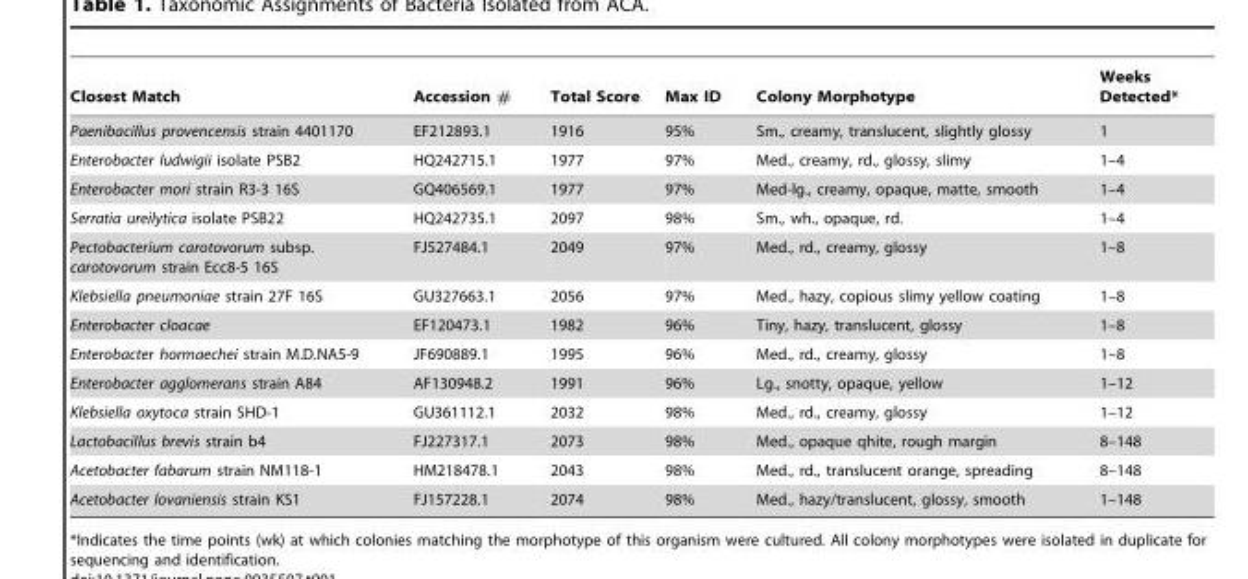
<table><thead><tr><td>Closest Match</td><td>Accession #</td><td>Total Score</td><td>Max ID</td><td>Colony Morphotype</td><td>Weeks Detected*</td></tr></thead><tbody><tr><td>Paenibacillus provencensis strain 4401170</td><td>EF212893.1</td><td>1916</td><td>95%</td><td>Sm., creamy, translucent, slightly glossy</td><td>1</td></tr><tr><td>Enterobacter ludwigii isolate PSB2</td><td>HQ242715.1</td><td>1977</td><td>97%</td><td>Med., creamy, rd., glossy, slimy</td><td>1–4</td></tr><tr><td>Enterobacter mori strain R3-3 16S</td><td>GQ406569.1</td><td>1977</td><td>97%</td><td>Med-lg., creamy, opaque, matte, smooth</td><td>1–4</td></tr><tr><td>Serratia ureilytica isolate PSB22</td><td>HQ242735.1</td><td>2097</td><td>98%</td><td>Sm., wh., opaque, rd.</td><td>1–4</td></tr><tr><td>Pectobacterium carotovorum subsp. carotovorum strain Ecc8-5 16S</td><td>FJ527484.1</td><td>2049</td><td>97%</td><td>Med., rd., creamy, glossy</td><td>1–8</td></tr><tr><td>Klebsiella pneumoniae strain 27F 16S</td><td>GU327663.1</td><td>2056</td><td>97%</td><td>Med., hazy, copious slimy yellow coating</td><td>1–8</td></tr><tr><td>Enterobacter cloacae</td><td>EF120473.1</td><td>1982</td><td>96%</td><td>Tiny, hazy, translucent, glossy</td><td>1–8</td></tr><tr><td>Enterobacter hormaechei strain M.D.NA5-9</td><td>JF690889.1</td><td>1995</td><td>96%</td><td>Med., rd., creamy, glossy</td><td>1–8</td></tr><tr><td>Enterobacter agglomerans strain A84</td><td>AF130948.2</td><td>1991</td><td>96%</td><td>Lg., snotty, opaque, yellow</td><td>1–12</td></tr><tr><td>Klebsiella oxytoca strain SHD-1</td><td>GU361112.1</td><td>2032</td><td>98%</td><td>Med., rd., creamy, glossy</td><td>1–12</td></tr><tr><td>Lactobacillus brevis strain b4</td><td>FJ227317.1</td><td>2073</td><td>98%</td><td>Med., opaque qhite, rough margin</td><td>8–148</td></tr><tr><td>Acetobacter fabarum strain NM118-1</td><td>HM218478.1</td><td>2043</td><td>98%</td><td>Med., rd., translucent orange, spreading</td><td>8–148</td></tr><tr><td>Acetobacter lovaniensis strain KS1</td><td>FJ157228.1</td><td>2074</td><td>98%</td><td>Med., hazy/translucent, glossy, smooth</td><td>1–148</td></tr></tbody></table>